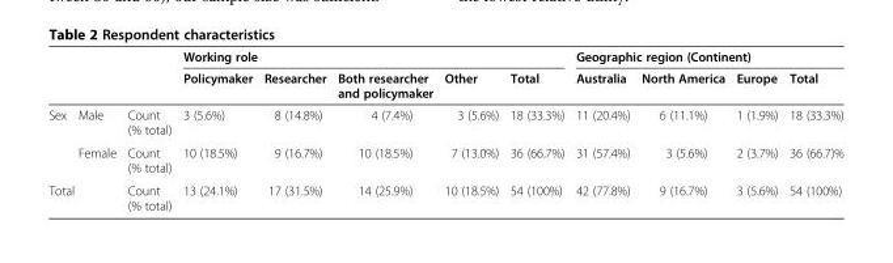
<table><thead><tr><td rowspan="2"></td><td rowspan="2"></td><td rowspan="2"></td><td colspan="5">Working role</td><td colspan="4">Geographic region (Continent)</td></tr><tr><td>Policymaker</td><td>Researcher</td><td>Both researcher and policymaker</td><td>Other</td><td>Total</td><td>Australia</td><td>North America</td><td>Europe</td><td>Total</td></tr></thead><tbody><tr><td rowspan="2">Sex</td><td>Male</td><td>Count (% total)</td><td>3 (5.6%)</td><td>8 (14.8%)</td><td>4 (7.4%)</td><td>3 (5.6%)</td><td>18 (33.3%)</td><td>11 (20.4%)</td><td>6 (11.1%)</td><td>1 (1.9%)</td><td>18 (33.3%)</td></tr><tr><td>Female</td><td>Count (% total)</td><td>10 (18.5%)</td><td>9 (16.7%)</td><td>10 (18.5%)</td><td>7 (13.0%)</td><td>36 (66.7%)</td><td>31 (57.4%)</td><td>3 (5.6%)</td><td>2 (3.7%)</td><td>36 (66.7)%</td></tr><tr><td colspan="2">Total</td><td>Count (% total)</td><td>13 (24.1%)</td><td>17 (31.5%)</td><td>14 (25.9%)</td><td>10 (18.5%)</td><td>54 (100%)</td><td>42 (77.8%)</td><td>9 (16.7%)</td><td>3 (5.6%)</td><td>54 (100%)</td></tr></tbody></table>